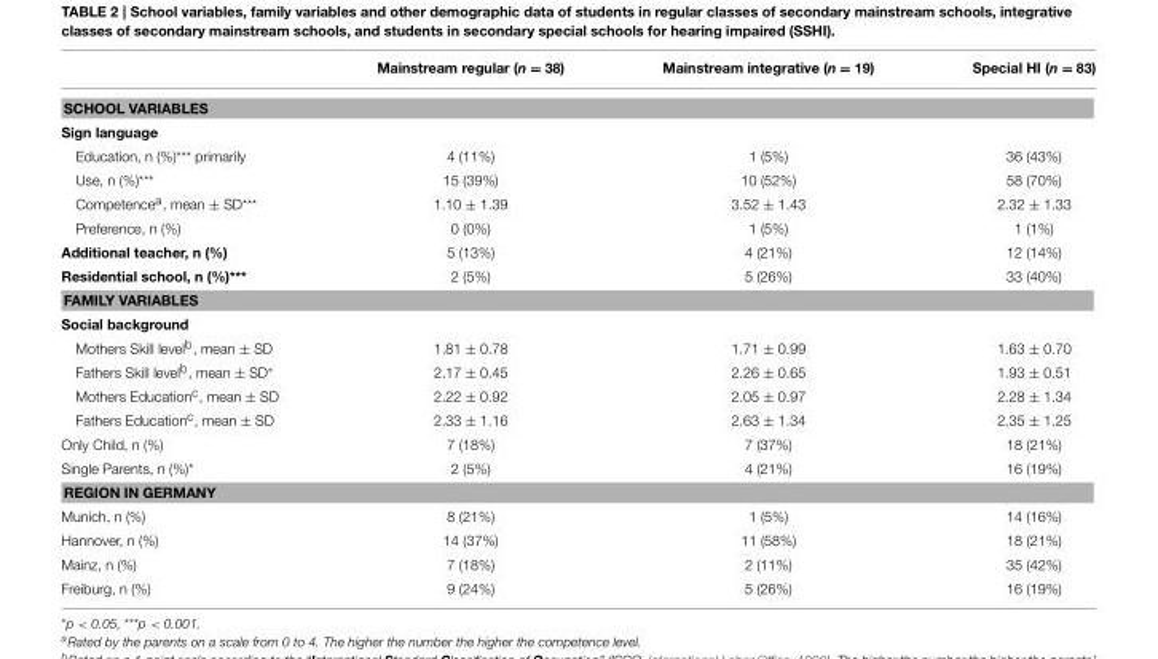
<table><thead><tr><td></td><td>Mainstream regular (n = 38)</td><td>Mainstream integrative (n = 19)</td><td>Special HI (n = 83)</td></tr></thead><tbody><tr><td colspan="4">SCHOOL VARIABLES</td></tr><tr><td colspan="4">Sign language</td></tr><tr><td>Education, n (%)*** primarily</td><td>4 (11%)</td><td>1 (5%)</td><td>36 (43%)</td></tr><tr><td>Use, n (%)***</td><td>15 (39%)</td><td>10 (52%)</td><td>58 (70%)</td></tr><tr><td>Competence<sup>a</sup>, mean ± SD***</td><td>1.10 ± 1.39</td><td>3.52 ± 1.43</td><td>2.32 ± 1.33</td></tr><tr><td>Preference, n (%)</td><td>0 (0%)</td><td>1 (5%)</td><td>1 (1%)</td></tr><tr><td>Additional teacher, n (%)</td><td>5 (13%)</td><td>4 (21%)</td><td>12 (14%)</td></tr><tr><td>Residential school, n (%)***</td><td>2 (5%)</td><td>5 (26%)</td><td>33 (40%)</td></tr><tr><td colspan="4">FAMILY VARIABLES</td></tr><tr><td colspan="4">Social background</td></tr><tr><td>Mothers Skill level<sup>b</sup>, mean ± SD</td><td>1.81 ± 0.78</td><td>1.71 ± 0.99</td><td>1.63 ± 0.70</td></tr><tr><td>Fathers Skill level<sup>b</sup>, mean ± SD*</td><td>2.17 ± 0.45</td><td>2.26 ± 0.65</td><td>1.93 ± 0.51</td></tr><tr><td>Mothers Education<sup>c</sup>, mean ± SD</td><td>2.22 ± 0.92</td><td>2.05 ± 0.97</td><td>2.28 ± 1.34</td></tr><tr><td>Fathers Education<sup>c</sup>, mean ± SD</td><td>2.33 ± 1.16</td><td>2.63 ± 1.34</td><td>2.35 ± 1.25</td></tr><tr><td>Only Child, n (%)</td><td>7 (18%)</td><td>7 (37%)</td><td>18 (21%)</td></tr><tr><td>Single Parents, n (%)*</td><td>2 (5%)</td><td>4 (21%)</td><td>16 (19%)</td></tr><tr><td colspan="4">REGION IN GERMANY</td></tr><tr><td>Munich, n (%)</td><td>8 (21%)</td><td>1 (5%)</td><td>14 (16%)</td></tr><tr><td>Hannover, n (%)</td><td>14 (37%)</td><td>11 (58%)</td><td>18 (21%)</td></tr><tr><td>Mainz, n (%)</td><td>7 (18%)</td><td>2 (11%)</td><td>35 (42%)</td></tr><tr><td>Freiburg, n (%)</td><td>9 (24%)</td><td>5 (26%)</td><td>16 (19%)</td></tr></tbody></table>